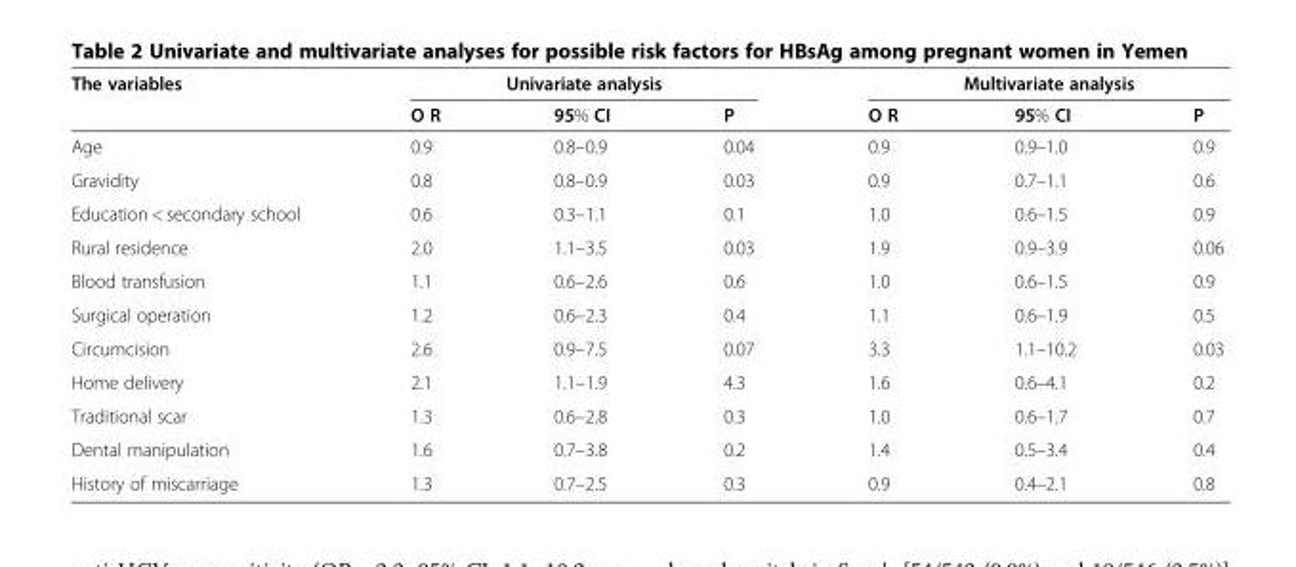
<table><thead><tr><td rowspan="2">The variables</td><td colspan="3">Univariate analysis</td><td colspan="3">Multivariate analysis</td></tr><tr><td>O R</td><td>95% CI</td><td>P</td><td>O R</td><td>95% CI</td><td>P</td></tr></thead><tbody><tr><td>Age</td><td>0.9</td><td>0.8–0.9</td><td>0.04</td><td>0.9</td><td>0.9–1.0</td><td>0.9</td></tr><tr><td>Gravidity</td><td>0.8</td><td>0.8–0.9</td><td>0.03</td><td>0.9</td><td>0.7–1.1</td><td>0.6</td></tr><tr><td>Education &lt; secondary school</td><td>0.6</td><td>0.3–1.1</td><td>0.1</td><td>1.0</td><td>0.6–1.5</td><td>0.9</td></tr><tr><td>Rural residence</td><td>2.0</td><td>1.1–3.5</td><td>0.03</td><td>1.9</td><td>0.9–3.9</td><td>0.06</td></tr><tr><td>Blood transfusion</td><td>1.1</td><td>0.6–2.6</td><td>0.6</td><td>1.0</td><td>0.6–1.5</td><td>0.9</td></tr><tr><td>Surgical operation</td><td>1.2</td><td>0.6–2.3</td><td>0.4</td><td>1.1</td><td>0.6–1.9</td><td>0.5</td></tr><tr><td>Circumcision</td><td>2.6</td><td>0.9–7.5</td><td>0.07</td><td>3.3</td><td>1.1–10.2</td><td>0.03</td></tr><tr><td>Home delivery</td><td>2.1</td><td>1.1–1.9</td><td>4.3</td><td>1.6</td><td>0.6–4.1</td><td>0.2</td></tr><tr><td>Traditional scar</td><td>1.3</td><td>0.6–2.8</td><td>0.3</td><td>1.0</td><td>0.6–1.7</td><td>0.7</td></tr><tr><td>Dental manipulation</td><td>1.6</td><td>0.7–3.8</td><td>0.2</td><td>1.4</td><td>0.5–3.4</td><td>0.4</td></tr><tr><td>History of miscarriage</td><td>1.3</td><td>0.7–2.5</td><td>0.3</td><td>0.9</td><td>0.4–2.1</td><td>0.8</td></tr></tbody></table>